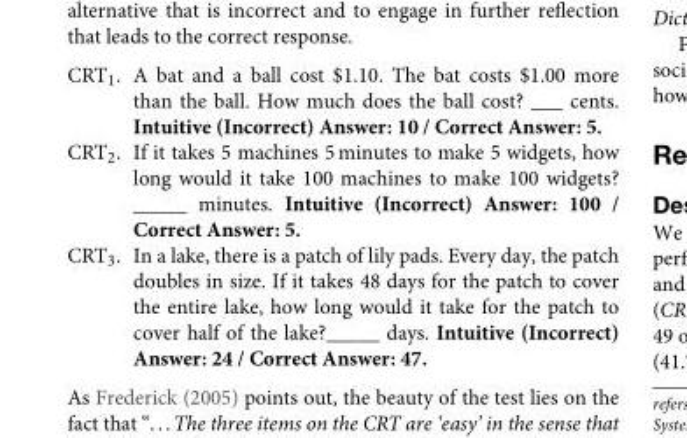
<table><tbody><tr><td>CRT<sub>1</sub>.</td><td>A bat and a ball cost $1.10. The bat costs $1.00 more than the ball. How much does the ball cost? ___ cents. Intuitive (Incorrect) Answer: 10 / Correct Answer: 5.</td></tr><tr><td>CRT<sub>2</sub>.</td><td>If it takes 5 machines 5 minutes to make 5 widgets, how long would it take 100 machines to make 100 widgets? _____ minutes. Intuitive (Incorrect) Answer: 100 / Correct Answer: 5.</td></tr><tr><td>CRT<sub>3</sub>.</td><td>In a lake, there is a patch of lily pads. Every day, the patch doubles in size. If it takes 48 days for the patch to cover the entire lake, how long would it take for the patch to cover half of the lake?_____ days. Intuitive (Incorrect) Answer: 24 / Correct Answer: 47.</td></tr></tbody></table>